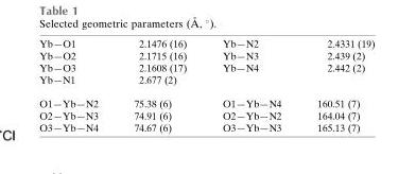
<table><tbody><tr><td>Yb—O1</td><td>2.1476 (16)</td><td>Yb—N2</td><td>2.4331 (19)</td></tr><tr><td>Yb—O2</td><td>2.1715 (16)</td><td>Yb—N3</td><td>2.439 (2)</td></tr><tr><td>Yb—O3</td><td>2.1608 (17)</td><td>Yb—N4</td><td>2.442 (2)</td></tr><tr><td>Yb—N1</td><td>2.677 (2)</td><td></td><td></td></tr><tr><td>O1—Yb—N2</td><td>75.38 (6)</td><td>O1—Yb—N4</td><td>160.51 (7)</td></tr><tr><td>O2—Yb—N3</td><td>74.91 (6)</td><td>O2—Yb—N2</td><td>164.04 (7)</td></tr><tr><td>O3—Yb—N4</td><td>74.67 (6)</td><td>O3—Yb—N3</td><td>165.13 (7)</td></tr></tbody></table>